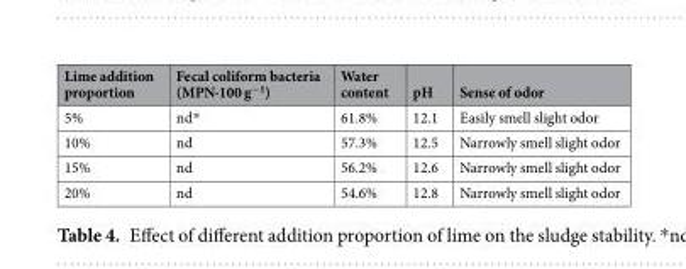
<table><thead><tr><td>Lime addition proportion</td><td>Fecal coliform bacteria (MPN·100 g<sup>−1</sup>)</td><td>Water content</td><td>pH</td><td>Sense of odor</td></tr></thead><tbody><tr><td>5%</td><td>nd*</td><td>61.8%</td><td>12.1</td><td>Easily smell slight odor</td></tr><tr><td>10%</td><td>nd</td><td>57.3%</td><td>12.5</td><td>Narrowly smell slight odor</td></tr><tr><td>15%</td><td>nd</td><td>56.2%</td><td>12.6</td><td>Narrowly smell slight odor</td></tr><tr><td>20%</td><td>nd</td><td>54.6%</td><td>12.8</td><td>Narrowly smell slight odor</td></tr></tbody></table>